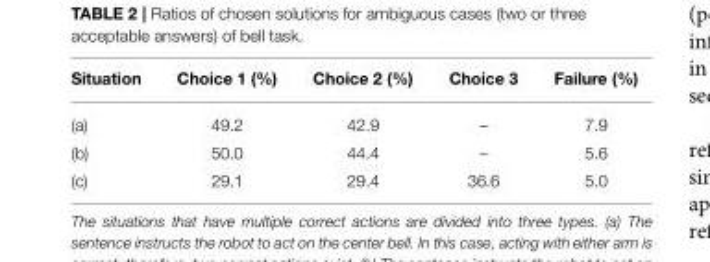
<table><thead><tr><td>Situation</td><td>Choice 1 (%)</td><td>Choice 2 (%)</td><td>Choice 3</td><td>Failure (%)</td></tr></thead><tbody><tr><td>(a)</td><td>49.2</td><td>42.9</td><td>–</td><td>7.9</td></tr><tr><td>(b)</td><td>50.0</td><td>44.4</td><td>–</td><td>5.6</td></tr><tr><td>(c)</td><td>29.1</td><td>29.4</td><td>36.6</td><td>5.0</td></tr></tbody></table>